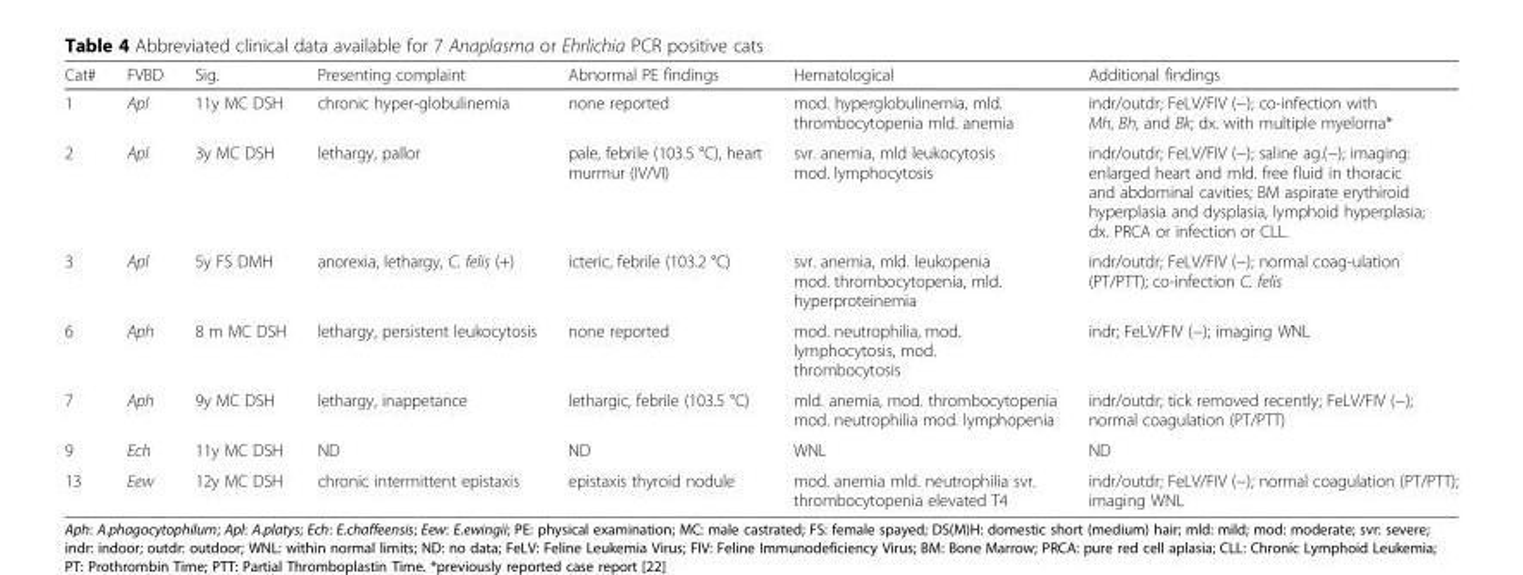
<table><thead><tr><td>Cat#</td><td>FVBD</td><td>Sig.</td><td>Presenting complaint</td><td>Abnormal PE findings</td><td>Hematological</td><td>Additional findings</td></tr></thead><tbody><tr><td>1</td><td>Apl</td><td>11y MC DSH</td><td>chronic hyper-globulinemia</td><td>none reported</td><td>mod. hyperglobulinemia, mld. thrombocytopenia mld. anemia</td><td>indr/outdr; FeLV/FIV (−); co-infection with Mh, Bh, and Bk; dx. with multiple myeloma*</td></tr><tr><td>2</td><td>Apl</td><td>3y MC DSH</td><td>lethargy, pallor</td><td>pale, febrile (103.5 °C), heart murmur (IV/VI)</td><td>svr. anemia, mld leukocytosis mod. lymphocytosis</td><td>indr/outdr; FeLV/FIV (−); saline ag.(−); imaging: enlarged heart and mld. free fluid in thoracic and abdominal cavities; BM aspirate erythiroid hyperplasia and dysplasia, lymphoid hyperplasia; dx. PRCA or infection or CLL.</td></tr><tr><td>3</td><td>Apl</td><td>5y FS DMH</td><td>anorexia, lethargy, C. felis (+)</td><td>icteric, febrile (103.2 °C)</td><td>svr. anemia, mld. leukopenia mod. thrombocytopenia, mld. hyperproteinemia</td><td>indr/outdr; FeLV/FIV (−); normal coag-ulation (PT/PTT); co-infection C. felis</td></tr><tr><td>6</td><td>Aph</td><td>8 m MC DSH</td><td>lethargy, persistent leukocytosis</td><td>none reported</td><td>mod. neutrophilia, mod. lymphocytosis, mod. thrombocytosis</td><td>indr; FeLV/FIV (−); imaging WNL</td></tr><tr><td>7</td><td>Aph</td><td>9y MC DSH</td><td>lethargy, inappetance</td><td>lethargic, febrile (103.5 °C)</td><td>mld. anemia, mod. thrombocytopenia mod. neutrophilia mod. lymphopenia</td><td>indr/outdr; tick removed recently; FeLV/FIV (−); normal coagulation (PT/PTT)</td></tr><tr><td>9</td><td>Ech</td><td>11y MC DSH</td><td>ND</td><td>ND</td><td>WNL</td><td>ND</td></tr><tr><td>13</td><td>Eew</td><td>12y MC DSH</td><td>chronic intermittent epistaxis</td><td>epistaxis thyroid nodule</td><td>mod. anemia mld. neutrophilia svr. thrombocytopenia elevated T4</td><td>indr/outdr; FeLV/FIV (−); normal coagulation (PT/PTT); imaging WNL</td></tr></tbody></table>